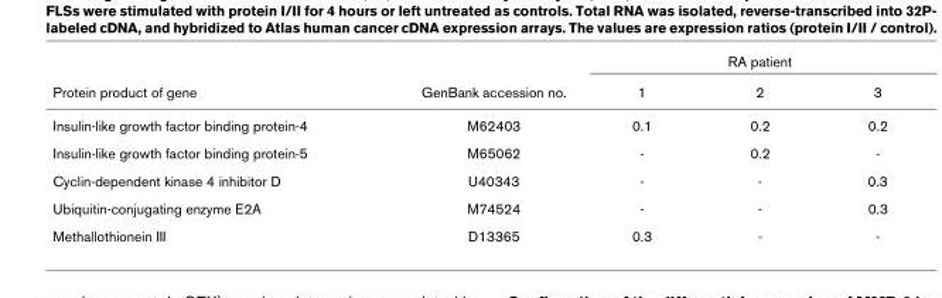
<table><thead><tr><td rowspan="2">Protein product of gene</td><td rowspan="2">GenBank accession no.</td><td colspan="3">RA patient</td></tr><tr><td>1</td><td>2</td><td>3</td></tr></thead><tbody><tr><td>Insulin-like growth factor binding protein-4</td><td>M62403</td><td>0.1</td><td>0.2</td><td>0.2</td></tr><tr><td>Insulin-like growth factor binding protein-5</td><td>M65062</td><td>-</td><td>0.2</td><td>-</td></tr><tr><td>Cyclin-dependent kinase 4 inhibitor D</td><td>U40343</td><td>-</td><td>-</td><td>0.3</td></tr><tr><td>Ubiquitin-conjugating enzyme E2A</td><td>M74524</td><td>-</td><td>-</td><td>0.3</td></tr><tr><td>Methallothionein III</td><td>D13365</td><td>0.3</td><td>-</td><td>-</td></tr></tbody></table>